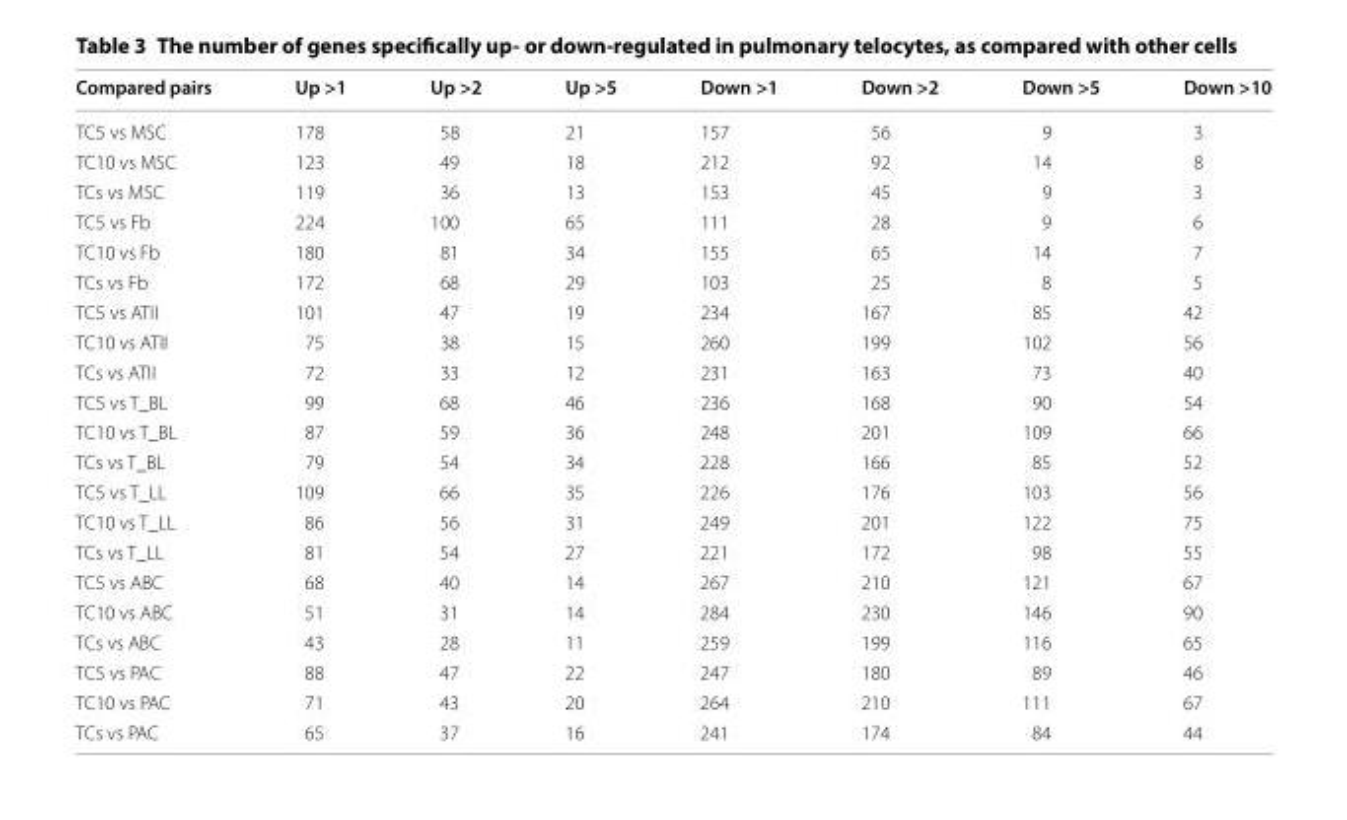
<table><thead><tr><td>Compared pairs</td><td>Up &gt;1</td><td>Up &gt;2</td><td>Up &gt;5</td><td>Down &gt;1</td><td>Down &gt;2</td><td>Down &gt;5</td><td>Down &gt;10</td></tr></thead><tbody><tr><td>TC5 vs MSC</td><td>178</td><td>58</td><td>21</td><td>157</td><td>56</td><td>9</td><td>3</td></tr><tr><td>TC10 vs MSC</td><td>123</td><td>49</td><td>18</td><td>212</td><td>92</td><td>14</td><td>8</td></tr><tr><td>TCs vs MSC</td><td>119</td><td>36</td><td>13</td><td>153</td><td>45</td><td>9</td><td>3</td></tr><tr><td>TC5 vs Fb</td><td>224</td><td>100</td><td>65</td><td>111</td><td>28</td><td>9</td><td>6</td></tr><tr><td>TC10 vs Fb</td><td>180</td><td>81</td><td>34</td><td>155</td><td>65</td><td>14</td><td>7</td></tr><tr><td>TCs vs Fb</td><td>172</td><td>68</td><td>29</td><td>103</td><td>25</td><td>8</td><td>5</td></tr><tr><td>TC5 vs ATII</td><td>101</td><td>47</td><td>19</td><td>234</td><td>167</td><td>85</td><td>42</td></tr><tr><td>TC10 vs ATII</td><td>75</td><td>38</td><td>15</td><td>260</td><td>199</td><td>102</td><td>56</td></tr><tr><td>TCs vs ATII</td><td>72</td><td>33</td><td>12</td><td>231</td><td>163</td><td>73</td><td>40</td></tr><tr><td>TC5 vs T_BL</td><td>99</td><td>68</td><td>46</td><td>236</td><td>168</td><td>90</td><td>54</td></tr><tr><td>TC10 vs T_BL</td><td>87</td><td>59</td><td>36</td><td>248</td><td>201</td><td>109</td><td>66</td></tr><tr><td>TCs vs T_BL</td><td>79</td><td>54</td><td>34</td><td>228</td><td>166</td><td>85</td><td>52</td></tr><tr><td>TC5 vs T_LL</td><td>109</td><td>66</td><td>35</td><td>226</td><td>176</td><td>103</td><td>56</td></tr><tr><td>TC10 vs T_LL</td><td>86</td><td>56</td><td>31</td><td>249</td><td>201</td><td>122</td><td>75</td></tr><tr><td>TCs vs T_LL</td><td>81</td><td>54</td><td>27</td><td>221</td><td>172</td><td>98</td><td>55</td></tr><tr><td>TC5 vs ABC</td><td>68</td><td>40</td><td>14</td><td>267</td><td>210</td><td>121</td><td>67</td></tr><tr><td>TC10 vs ABC</td><td>51</td><td>31</td><td>14</td><td>284</td><td>230</td><td>146</td><td>90</td></tr><tr><td>TCs vs ABC</td><td>43</td><td>28</td><td>11</td><td>259</td><td>199</td><td>116</td><td>65</td></tr><tr><td>TC5 vs PAC</td><td>88</td><td>47</td><td>22</td><td>247</td><td>180</td><td>89</td><td>46</td></tr><tr><td>TC10 vs PAC</td><td>71</td><td>43</td><td>20</td><td>264</td><td>210</td><td>111</td><td>67</td></tr><tr><td>TCs vs PAC</td><td>65</td><td>37</td><td>16</td><td>241</td><td>174</td><td>84</td><td>44</td></tr></tbody></table>